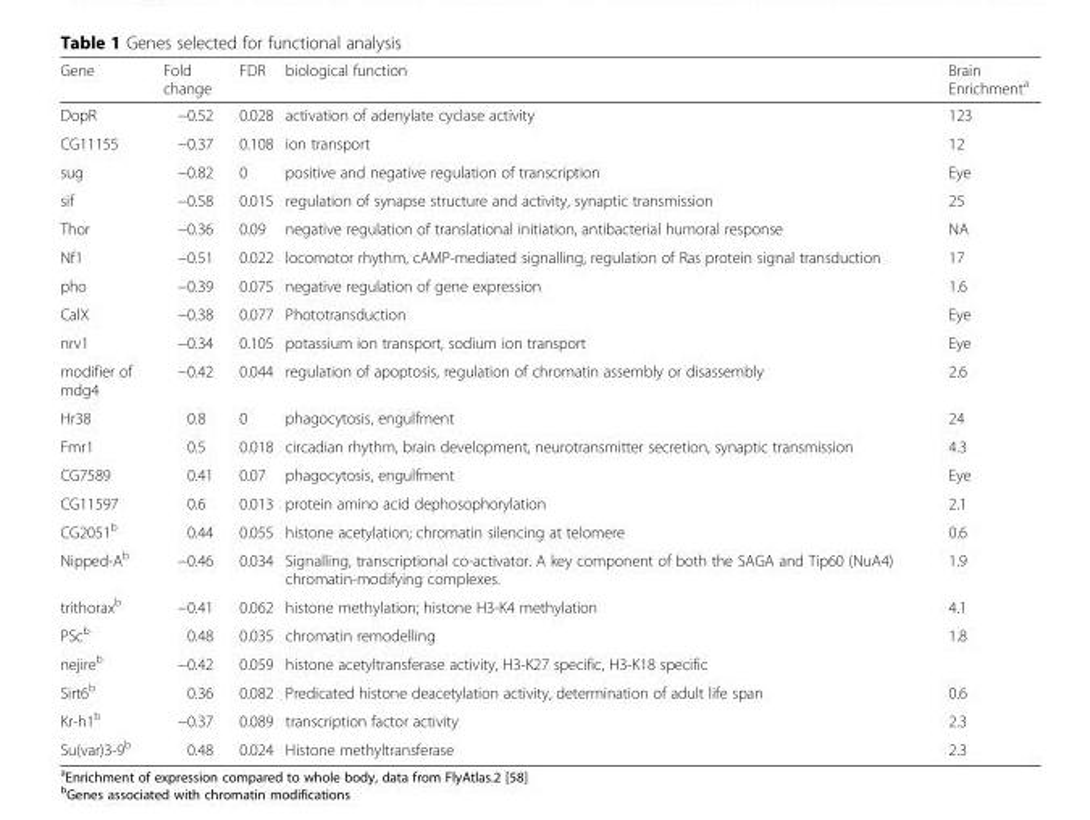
<table><thead><tr><td>Gene</td><td>Fold change</td><td>FDR</td><td>biological function</td><td>Brain Enrichment<sup>a</sup></td></tr></thead><tbody><tr><td>DopR</td><td>−0.52</td><td>0.028</td><td>activation of adenylate cyclase activity</td><td>123</td></tr><tr><td>CG11155</td><td>−0.37</td><td>0.108</td><td>ion transport</td><td>12</td></tr><tr><td>sug</td><td>−0.82</td><td>0</td><td>positive and negative regulation of transcription</td><td>Eye</td></tr><tr><td>sif</td><td>−0.58</td><td>0.015</td><td>regulation of synapse structure and activity, synaptic transmission</td><td>25</td></tr><tr><td>Thor</td><td>−0.36</td><td>0.09</td><td>negative regulation of translational initiation, antibacterial humoral response</td><td>NA</td></tr><tr><td>Nf1</td><td>−0.51</td><td>0.022</td><td>locomotor rhythm, cAMP-mediated signalling, regulation of Ras protein signal transduction</td><td>17</td></tr><tr><td>pho</td><td>−0.39</td><td>0.075</td><td>negative regulation of gene expression</td><td>1.6</td></tr><tr><td>CalX</td><td>−0.38</td><td>0.077</td><td>Phototransduction</td><td>Eye</td></tr><tr><td>nrv1</td><td>−0.34</td><td>0.105</td><td>potassium ion transport, sodium ion transport</td><td>Eye</td></tr><tr><td>modifier of mdg4</td><td>−0.42</td><td>0.044</td><td>regulation of apoptosis, regulation of chromatin assembly or disassembly</td><td>2.6</td></tr><tr><td>Hr38</td><td>0.8</td><td>0</td><td>phagocytosis, engulfment</td><td>24</td></tr><tr><td>Fmr1</td><td>0.5</td><td>0.018</td><td>circadian rhythm, brain development, neurotransmitter secretion, synaptic transmission</td><td>4.3</td></tr><tr><td>CG7589</td><td>0.41</td><td>0.07</td><td>phagocytosis, engulfment</td><td>Eye</td></tr><tr><td>CG11597</td><td>0.6</td><td>0.013</td><td>protein amino acid dephosophorylation</td><td>2.1</td></tr><tr><td>CG2051<sup>b</sup></td><td>0.44</td><td>0.055</td><td>histone acetylation; chromatin silencing at telomere</td><td>0.6</td></tr><tr><td>Nipped-A<sup>b</sup></td><td>−0.46</td><td>0.034</td><td>Signalling, transcriptional co-activator. A key component of both the SAGA and Tip60 (NuA4) chromatin-modifying complexes.</td><td>1.9</td></tr><tr><td>trithorax<sup>b</sup></td><td>−0.41</td><td>0.062</td><td>histone methylation; histone H3-K4 methylation</td><td>4.1</td></tr><tr><td>PSc<sup>b</sup></td><td>0.48</td><td>0.035</td><td>chromatin remodelling</td><td>1.8</td></tr><tr><td>nejire<sup>b</sup></td><td>−0.42</td><td>0.059</td><td>histone acetyltransferase activity, H3-K27 specific, H3-K18 specific</td><td></td></tr><tr><td>Sirt6<sup>b</sup></td><td>0.36</td><td>0.082</td><td>Predicated histone deacetylation activity, determination of adult life span</td><td>0.6</td></tr><tr><td>Kr-h1<sup>b</sup></td><td>−0.37</td><td>0.089</td><td>transcription factor activity</td><td>2.3</td></tr><tr><td>Su(var)3-9<sup>b</sup></td><td>0.48</td><td>0.024</td><td>Histone methyltransferase</td><td>2.3</td></tr></tbody></table>